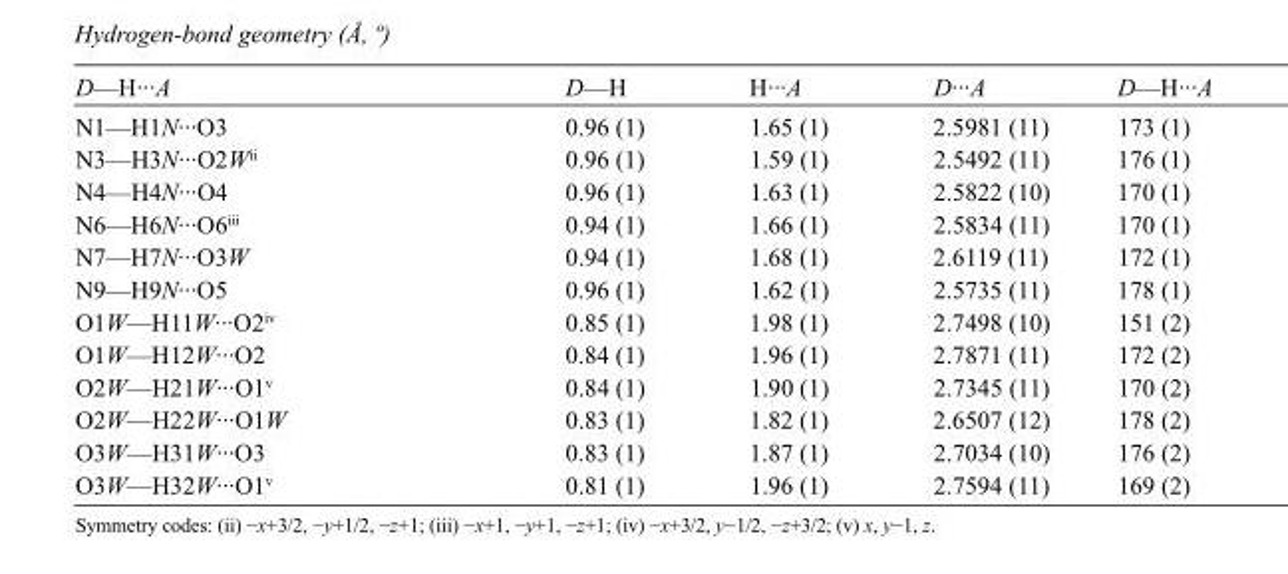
<table><tbody><tr><td>D—H···A</td><td>D—H</td><td>H···A</td><td>D···A</td><td>D—H···A</td></tr><tr><td>N1—H1N···O3</td><td>0.96 (1)</td><td>1.65 (1)</td><td>2.5981 (11)</td><td>173 (1)</td></tr><tr><td>N3—H3N···O2W<sup>ii</sup></td><td>0.96 (1)</td><td>1.59 (1)</td><td>2.5492 (11)</td><td>176 (1)</td></tr><tr><td>N4—H4N···O4</td><td>0.96 (1)</td><td>1.63 (1)</td><td>2.5822 (10)</td><td>170 (1)</td></tr><tr><td>N6—H6N···O6<sup>iii</sup></td><td>0.94 (1)</td><td>1.66 (1)</td><td>2.5834 (11)</td><td>170 (1)</td></tr><tr><td>N7—H7N···O3W</td><td>0.94 (1)</td><td>1.68 (1)</td><td>2.6119 (11)</td><td>172 (1)</td></tr><tr><td>N9—H9N···O5</td><td>0.96 (1)</td><td>1.62 (1)</td><td>2.5735 (11)</td><td>178 (1)</td></tr><tr><td>O1W—H11W···O2<sup>iv</sup></td><td>0.85 (1)</td><td>1.98 (1)</td><td>2.7498 (10)</td><td>151 (2)</td></tr><tr><td>O1W—H12W···O2</td><td>0.84 (1)</td><td>1.96 (1)</td><td>2.7871 (11)</td><td>172 (2)</td></tr><tr><td>O2W—H21W···O1<sup>v</sup></td><td>0.84 (1)</td><td>1.90 (1)</td><td>2.7345 (11)</td><td>170 (2)</td></tr><tr><td>O2W—H22W···O1W</td><td>0.83 (1)</td><td>1.82 (1)</td><td>2.6507 (12)</td><td>178 (2)</td></tr><tr><td>O3W—H31W···O3</td><td>0.83 (1)</td><td>1.87 (1)</td><td>2.7034 (10)</td><td>176 (2)</td></tr><tr><td>O3W—H32W···O1<sup>v</sup></td><td>0.81 (1)</td><td>1.96 (1)</td><td>2.7594 (11)</td><td>169 (2)</td></tr></tbody></table>